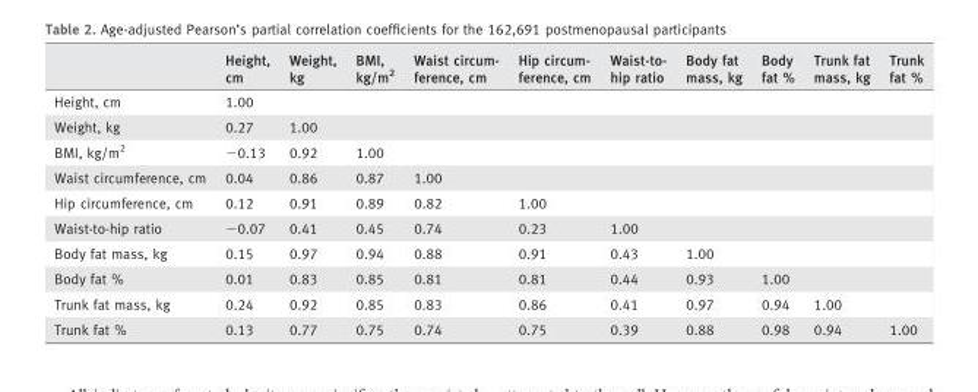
<table><thead><tr><td></td><td>Height, cm</td><td>Weight, kg</td><td>BMI, kg/m<sup>2</sup></td><td>Waist circum- ference, cm</td><td>Hip circum- ference, cm</td><td>Waist-to- hip ratio</td><td>Body fat mass, kg</td><td>Body fat %</td><td>Trunk fat mass, kg</td><td>Trunk fat %</td></tr></thead><tbody><tr><td>Height, cm</td><td>1.00</td><td></td><td></td><td></td><td></td><td></td><td></td><td></td><td></td><td></td></tr><tr><td>Weight, kg</td><td>0.27</td><td>1.00</td><td></td><td></td><td></td><td></td><td></td><td></td><td></td><td></td></tr><tr><td>BMI, kg/m<sup>2</sup></td><td>−0.13</td><td>0.92</td><td>1.00</td><td></td><td></td><td></td><td></td><td></td><td></td><td></td></tr><tr><td>Waist circumference, cm</td><td>0.04</td><td>0.86</td><td>0.87</td><td>1.00</td><td></td><td></td><td></td><td></td><td></td><td></td></tr><tr><td>Hip circumference, cm</td><td>0.12</td><td>0.91</td><td>0.89</td><td>0.82</td><td>1.00</td><td></td><td></td><td></td><td></td><td></td></tr><tr><td>Waist-to-hip ratio</td><td>−0.07</td><td>0.41</td><td>0.45</td><td>0.74</td><td>0.23</td><td>1.00</td><td></td><td></td><td></td><td></td></tr><tr><td>Body fat mass, kg</td><td>0.15</td><td>0.97</td><td>0.94</td><td>0.88</td><td>0.91</td><td>0.43</td><td>1.00</td><td></td><td></td><td></td></tr><tr><td>Body fat %</td><td>0.01</td><td>0.83</td><td>0.85</td><td>0.81</td><td>0.81</td><td>0.44</td><td>0.93</td><td>1.00</td><td></td><td></td></tr><tr><td>Trunk fat mass, kg</td><td>0.24</td><td>0.92</td><td>0.85</td><td>0.83</td><td>0.86</td><td>0.41</td><td>0.97</td><td>0.94</td><td>1.00</td><td></td></tr><tr><td>Trunk fat %</td><td>0.13</td><td>0.77</td><td>0.75</td><td>0.74</td><td>0.75</td><td>0.39</td><td>0.88</td><td>0.98</td><td>0.94</td><td>1.00</td></tr></tbody></table>